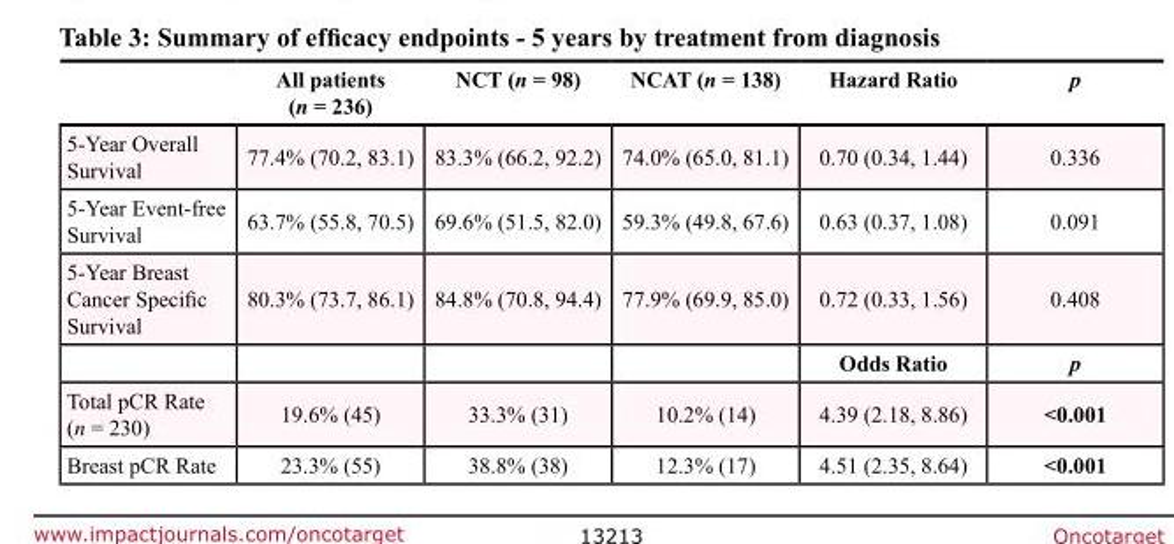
<table><thead><tr><td></td><td>All patients (n = 236)</td><td>NCT (n = 98)</td><td>NCAT (n = 138)</td><td>Hazard Ratio</td><td>p</td></tr></thead><tbody><tr><td>5-Year Overall Survival</td><td>77.4% (70.2, 83.1)</td><td>83.3% (66.2, 92.2)</td><td>74.0% (65.0, 81.1)</td><td>0.70 (0.34, 1.44)</td><td>0.336</td></tr><tr><td>5-Year Event-free Survival</td><td>63.7% (55.8, 70.5)</td><td>69.6% (51.5, 82.0)</td><td>59.3% (49.8, 67.6)</td><td>0.63 (0.37, 1.08)</td><td>0.091</td></tr><tr><td rowspan="2">5-Year Breast Cancer Specific Survival</td><td>80.3% (73.7, 86.1)</td><td>84.8% (70.8, 94.4)</td><td>77.9% (69.9, 85.0)</td><td>0.72 (0.33, 1.56)</td><td>0.408</td></tr><tr><td></td><td></td><td></td><td>Odds Ratio</td><td>p</td></tr><tr><td>Total pCR Rate (n = 230)</td><td>19.6% (45)</td><td>33.3% (31)</td><td>10.2% (14)</td><td>4.39 (2.18, 8.86)</td><td>&lt;0.001</td></tr><tr><td>Breast pCR Rate</td><td>23.3% (55)</td><td>38.8% (38)</td><td>12.3% (17)</td><td>4.51 (2.35, 8.64)</td><td>&lt;0.001</td></tr></tbody></table>